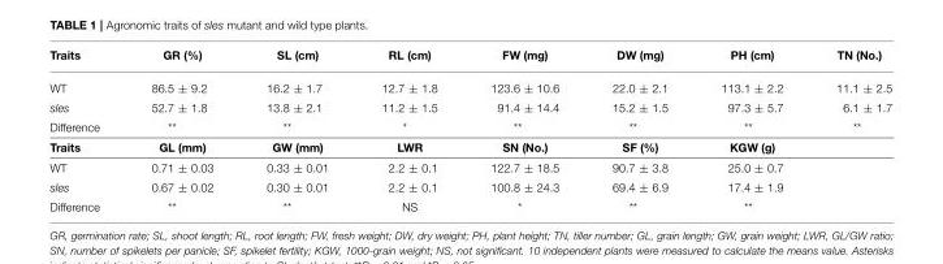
<table><thead><tr><td>Traits</td><td>GR (%)</td><td>SL (cm)</td><td>RL (cm)</td><td>FW (mg)</td><td>DW (mg)</td><td>PH (cm)</td><td>TN (No.)</td></tr></thead><tbody><tr><td>WT</td><td>86.5 ± 9.2</td><td>16.2 ± 1.7</td><td>12.7 ± 1.8</td><td>123.6 ± 10.6</td><td>22.0 ± 2.1</td><td>113.1 ± 2.2</td><td>11.1 ± 2.5</td></tr><tr><td>sles</td><td>52.7 ± 1.8</td><td>13.8 ± 2.1</td><td>11.2 ± 1.5</td><td>91.4 ± 14.4</td><td>15.2 ± 1.5</td><td>97.3 ± 5.7</td><td>6.1 ± 1.7</td></tr><tr><td>Difference</td><td>**</td><td>**</td><td>*</td><td>**</td><td>**</td><td>**</td><td>**</td></tr><tr><td>Traits</td><td>GL (mm)</td><td>GW (mm)</td><td>LWR</td><td>SN (No.)</td><td>SF (%)</td><td>KGW (g)</td><td></td></tr><tr><td>WT</td><td>0.71 ± 0.03</td><td>0.33 ± 0.01</td><td>2.2 ± 0.1</td><td>122.7 ± 18.5</td><td>90.7 ± 3.8</td><td>25.0 ± 0.7</td><td></td></tr><tr><td>sles</td><td>0.67 ± 0.02</td><td>0.30 ± 0.01</td><td>2.2 ± 0.1</td><td>100.8 ± 24.3</td><td>69.4 ± 6.9</td><td>17.4 ± 1.9</td><td></td></tr><tr><td>Difference</td><td>**</td><td>**</td><td>NS</td><td>*</td><td>**</td><td>**</td><td></td></tr></tbody></table>